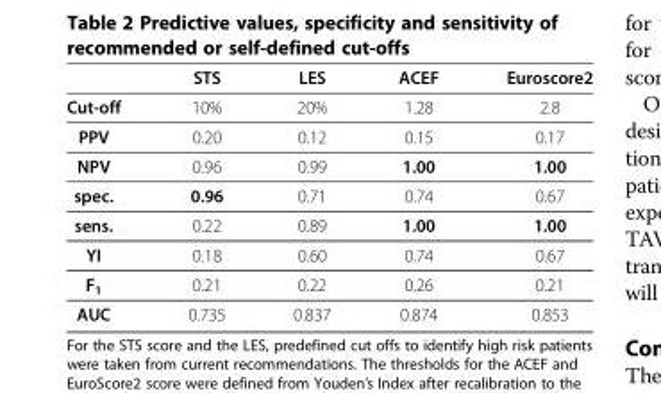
<table><thead><tr><td></td><td>STS</td><td>LES</td><td>ACEF</td><td>Euroscore2</td></tr></thead><tbody><tr><td>Cut-off</td><td>10%</td><td>20%</td><td>1.28</td><td>2.8</td></tr><tr><td>PPV</td><td>0.20</td><td>0.12</td><td>0.15</td><td>0.17</td></tr><tr><td>NPV</td><td>0.96</td><td>0.99</td><td>1.00</td><td>1.00</td></tr><tr><td>spec.</td><td>0.96</td><td>0.71</td><td>0.74</td><td>0.67</td></tr><tr><td>sens.</td><td>0.22</td><td>0.89</td><td>1.00</td><td>1.00</td></tr><tr><td>YI</td><td>0.18</td><td>0.60</td><td>0.74</td><td>0.67</td></tr><tr><td>F<sub>1</sub></td><td>0.21</td><td>0.22</td><td>0.26</td><td>0.21</td></tr><tr><td>AUC</td><td>0.735</td><td>0.837</td><td>0.874</td><td>0.853</td></tr></tbody></table>